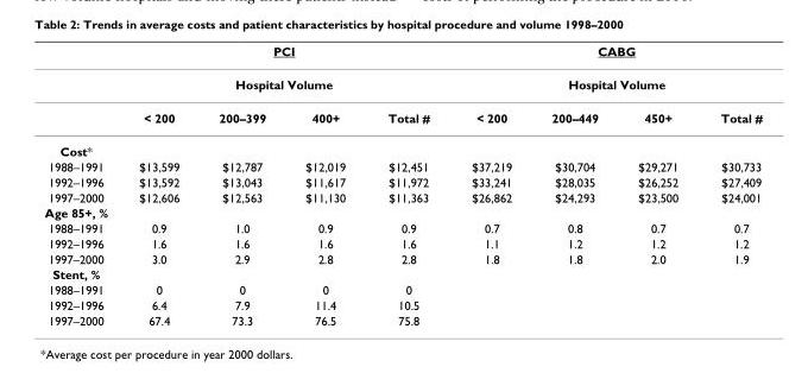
<table><thead><tr><td rowspan="3"></td><td rowspan="2" colspan="4">PCI Hospital Volume</td><td rowspan="2" colspan="4">CABG Hospital Volume</td></tr><tr></tr><tr><td>&lt; 200</td><td>200–399</td><td>400+</td><td>Total #</td><td>&lt; 200</td><td>200–449</td><td>450+</td><td>Total #</td></tr></thead><tbody><tr><td colspan="9">Cost*</td></tr><tr><td>1988–1991</td><td>$13,599</td><td>$12,787</td><td>$12,019</td><td>$12,451</td><td>$37,219</td><td>$30,704</td><td>$29,271</td><td>$30,733</td></tr><tr><td>1992–1996</td><td>$13,592</td><td>$13,043</td><td>$11,617</td><td>$11,972</td><td>$33,241</td><td>$28,035</td><td>$26,252</td><td>$27,409</td></tr><tr><td>1997–2000</td><td>$12,606</td><td>$12,563</td><td>$11,130</td><td>$11,363</td><td>$26,862</td><td>$24,293</td><td>$23,500</td><td>$24,001</td></tr><tr><td colspan="9">Age 85+, %</td></tr><tr><td>1988–1991</td><td>0.9</td><td>1.0</td><td>0.9</td><td>0.9</td><td>0.7</td><td>0.8</td><td>0.7</td><td>0.7</td></tr><tr><td>1992–1996</td><td>1.6</td><td>1.6</td><td>1.6</td><td>1.6</td><td>1.1</td><td>1.2</td><td>1.2</td><td>1.2</td></tr><tr><td>1997–2000</td><td>3.0</td><td>2.9</td><td>2.8</td><td>2.8</td><td>1.8</td><td>1.8</td><td>2.0</td><td>1.9</td></tr><tr><td colspan="9">Stent, %</td></tr><tr><td>1988–1991</td><td>0</td><td>0</td><td>0</td><td>0</td><td></td><td></td><td></td><td></td></tr><tr><td>1992–1996</td><td>6.4</td><td>7.9</td><td>11.4</td><td>10.5</td><td></td><td></td><td></td><td></td></tr><tr><td>1997–2000</td><td>67.4</td><td>73.3</td><td>76.5</td><td>75.8</td><td></td><td></td><td></td><td></td></tr></tbody></table>